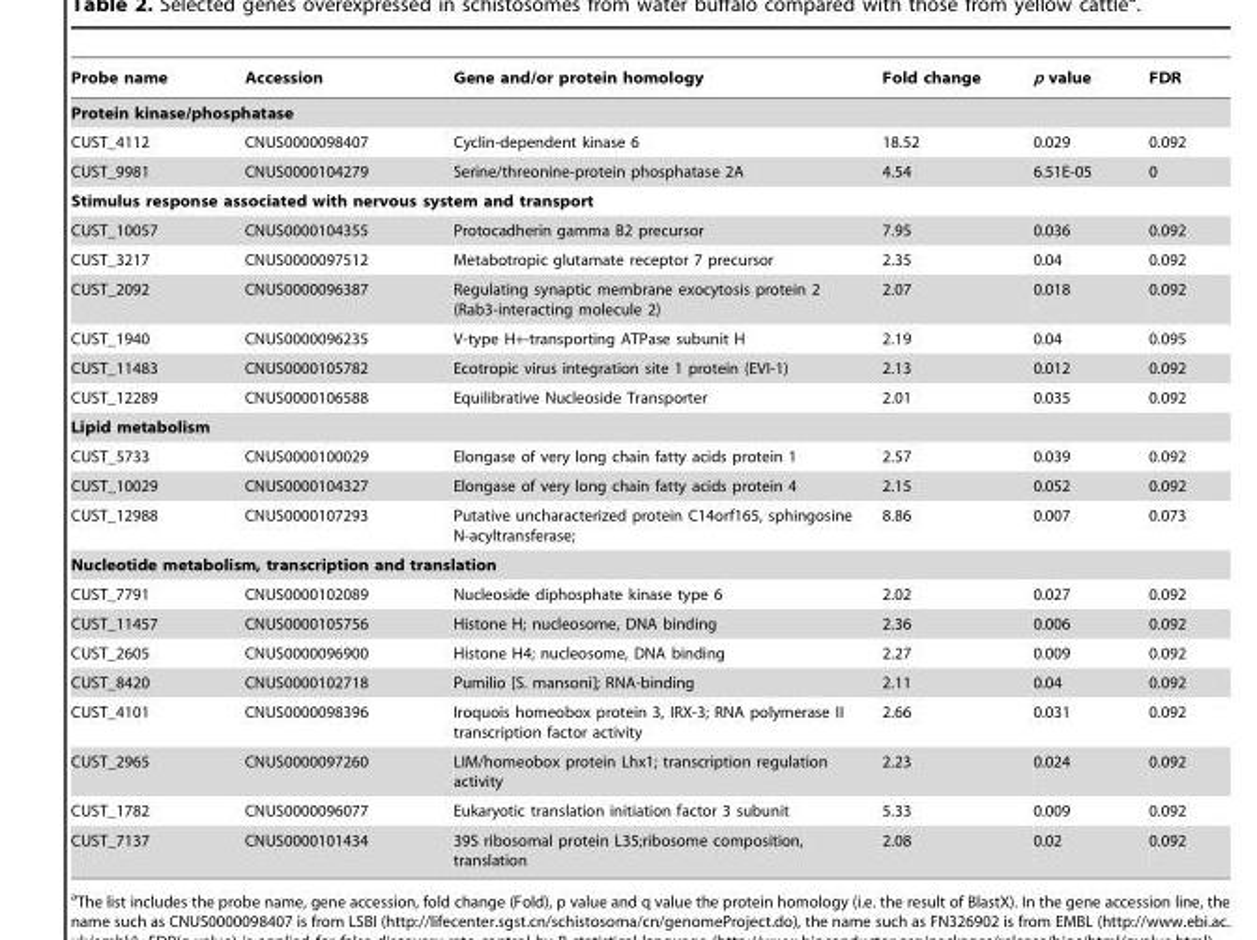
<table><thead><tr><td>Probe name</td><td>Accession</td><td>Gene and/or protein homology</td><td>Fold change</td><td>p value</td><td>FDR</td></tr></thead><tbody><tr><td colspan="6">Protein kinase/phosphatase</td></tr><tr><td>CUST_4112</td><td>CNUS0000098407</td><td>Cyclin-dependent kinase 6</td><td>18.52</td><td>0.029</td><td>0.092</td></tr><tr><td>CUST_9981</td><td>CNUS0000104279</td><td>Serine/threonine-protein phosphatase 2A</td><td>4.54</td><td>6.51E-05</td><td>0</td></tr><tr><td colspan="6">Stimulus response associated with nervous system and transport</td></tr><tr><td>CUST_10057</td><td>CNUS0000104355</td><td>Protocadherin gamma B2 precursor</td><td>7.95</td><td>0.036</td><td>0.092</td></tr><tr><td>CUST_3217</td><td>CNUS0000097512</td><td>Metabotropic glutamate receptor 7 precursor</td><td>2.35</td><td>0.04</td><td>0.092</td></tr><tr><td>CUST_2092</td><td>CNUS0000096387</td><td>Regulating synaptic membrane exocytosis protein 2 (Rab3-interacting molecule 2)</td><td>2.07</td><td>0.018</td><td>0.092</td></tr><tr><td>CUST_1940</td><td>CNUS0000096235</td><td>V-type H+-transporting ATPase subunit H</td><td>2.19</td><td>0.04</td><td>0.095</td></tr><tr><td>CUST_11483</td><td>CNUS0000105782</td><td>Ecotropic virus integration site 1 protein (EVI-1)</td><td>2.13</td><td>0.012</td><td>0.092</td></tr><tr><td>CUST_12289</td><td>CNUS0000106588</td><td>Equilibrative Nucleoside Transporter</td><td>2.01</td><td>0.035</td><td>0.092</td></tr><tr><td colspan="6">Lipid metabolism</td></tr><tr><td>CUST_5733</td><td>CNUS0000100029</td><td>Elongase of very long chain fatty acids protein 1</td><td>2.57</td><td>0.039</td><td>0.092</td></tr><tr><td>CUST_10029</td><td>CNUS0000104327</td><td>Elongase of very long chain fatty acids protein 4</td><td>2.15</td><td>0.052</td><td>0.092</td></tr><tr><td>CUST_12988</td><td>CNUS0000107293</td><td>Putative uncharacterized protein C14orf165, sphingosine N-acyltransferase;</td><td>8.86</td><td>0.007</td><td>0.073</td></tr><tr><td colspan="6">Nucleotide metabolism, transcription and translation</td></tr><tr><td>CUST_7791</td><td>CNUS0000102089</td><td>Nucleoside diphosphate kinase type 6</td><td>2.02</td><td>0.027</td><td>0.092</td></tr><tr><td>CUST_11457</td><td>CNUS0000105756</td><td>Histone H; nucleosome, DNA binding</td><td>2.36</td><td>0.006</td><td>0.092</td></tr><tr><td>CUST_2605</td><td>CNUS0000096900</td><td>Histone H4; nucleosome, DNA binding</td><td>2.27</td><td>0.009</td><td>0.092</td></tr><tr><td>CUST_8420</td><td>CNUS0000102718</td><td>Pumilio [S. mansoni]; RNA-binding</td><td>2.11</td><td>0.04</td><td>0.092</td></tr><tr><td>CUST_4101</td><td>CNUS0000098396</td><td>Iroquois homeobox protein 3, IRX-3; RNA polymerase II transcription factor activity</td><td>2.66</td><td>0.031</td><td>0.092</td></tr><tr><td>CUST_2965</td><td>CNUS0000097260</td><td>LIM/homeobox protein Lhx1; transcription regulation activity</td><td>2.23</td><td>0.024</td><td>0.092</td></tr><tr><td>CUST_1782</td><td>CNUS0000096077</td><td>Eukaryotic translation initiation factor 3 subunit</td><td>5.33</td><td>0.009</td><td>0.092</td></tr><tr><td>CUST_7137</td><td>CNUS0000101434</td><td>39S ribosomal protein L35;ribosome composition, translation</td><td>2.08</td><td>0.02</td><td>0.092</td></tr></tbody></table>